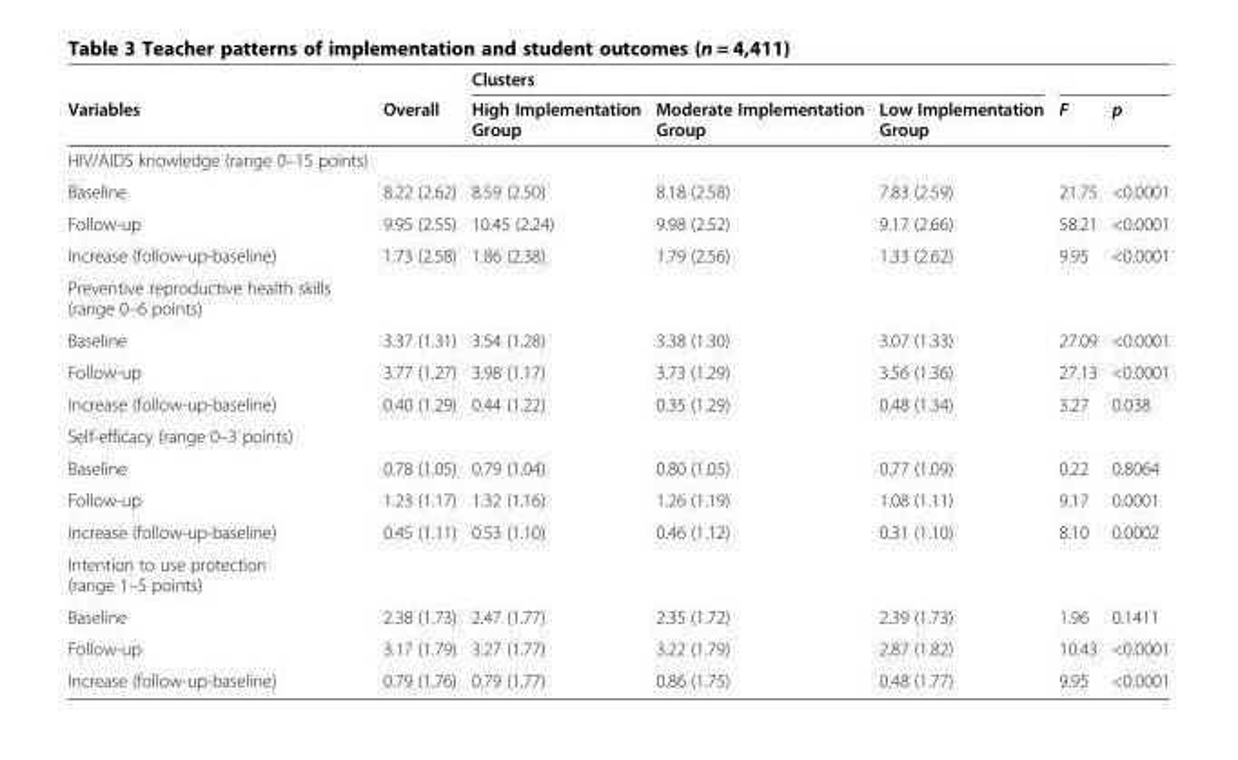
<table><thead><tr><td rowspan="2">Variables</td><td rowspan="2">Overall</td><td colspan="3">Clusters</td><td rowspan="2">F</td><td rowspan="2">p</td></tr><tr><td>High Implementation Group</td><td>Moderate Implementation Group</td><td>Low Implementation Group</td></tr></thead><tbody><tr><td colspan="7">HIV/AIDS knowledge (range 0–15 points)</td></tr><tr><td>Baseline</td><td>8.22 (2.62)</td><td>8.59 (2.50)</td><td>8.18 (2.58)</td><td>7.83 (2.59)</td><td>21.75</td><td>&lt;0.0001</td></tr><tr><td>Follow-up</td><td>9.95 (2.55)</td><td>10.45 (2.24)</td><td>9.98 (2.52)</td><td>9.17 (2.66)</td><td>58.21</td><td>&lt;0.0001</td></tr><tr><td>Increase (follow-up-baseline)</td><td>1.73 (2.58)</td><td>1.86 (2.38)</td><td>1.79 (2.56)</td><td>1.33 (2.62)</td><td>9.95</td><td>&lt;0.0001</td></tr><tr><td colspan="7">Preventive reproductive health skills (range 0–6 points)</td></tr><tr><td>Baseline</td><td>3.37 (1.31)</td><td>3.54 (1.28)</td><td>3.38 (1.30)</td><td>3.07 (1.33)</td><td>27.09</td><td>&lt;0.0001</td></tr><tr><td>Follow-up</td><td>3.77 (1.27)</td><td>3.98 (1.17)</td><td>3.73 (1.29)</td><td>3.56 (1.36)</td><td>27.13</td><td>&lt;0.0001</td></tr><tr><td>Increase (follow-up-baseline)</td><td>0.40 (1.29)</td><td>0.44 (1.22)</td><td>0.35 (1.29)</td><td>0.48 (1.34)</td><td>3.27</td><td>0.038</td></tr><tr><td colspan="7">Self-efficacy (range 0–3 points)</td></tr><tr><td>Baseline</td><td>0.78 (1.05)</td><td>0.79 (1.04)</td><td>0.80 (1.05)</td><td>0.77 (1.09)</td><td>0.22</td><td>0.8064</td></tr><tr><td>Follow-up</td><td>1.23 (1.17)</td><td>1.32 (1.16)</td><td>1.26 (1.19)</td><td>1.08 (1.11)</td><td>9.17</td><td>0.0001</td></tr><tr><td>Increase (follow-up-baseline)</td><td>0.45 (1.11)</td><td>0.53 (1.10)</td><td>0.46 (1.12)</td><td>0.31 (1.10)</td><td>8.10</td><td>0.0002</td></tr><tr><td colspan="7">Intention to use protection (range 1–5 points)</td></tr><tr><td>Baseline</td><td>2.38 (1.73)</td><td>2.47 (1.77)</td><td>2.35 (1.72)</td><td>2.39 (1.73)</td><td>1.96</td><td>0.1411</td></tr><tr><td>Follow-up</td><td>3.17 (1.79)</td><td>3.27 (1.77)</td><td>3.22 (1.79)</td><td>2.87 (1.82)</td><td>10.43</td><td>&lt;0.0001</td></tr><tr><td>Increase (follow-up-baseline)</td><td>0.79 (1.76)</td><td>0.79 (1.77)</td><td>0.86 (1.75)</td><td>0.48 (1.77)</td><td>9.95</td><td>&lt;0.0001</td></tr></tbody></table>